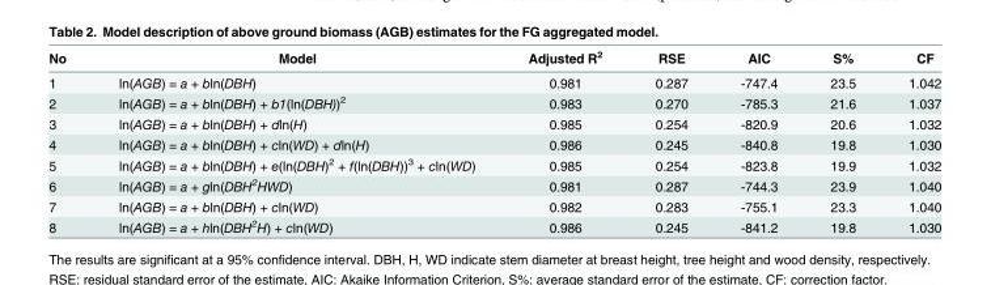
<table><thead><tr><td>No</td><td>Model</td><td>Adjusted R<sup>2</sup></td><td>RSE</td><td>AIC</td><td>S%</td><td>CF</td></tr></thead><tbody><tr><td>1</td><td>ln(AGB) = a + bln(DBH)</td><td>0.981</td><td>0.287</td><td>-747.4</td><td>23.5</td><td>1.042</td></tr><tr><td>2</td><td>ln(AGB) = a + bln(DBH) + b1(ln(DBH))<sup>2</sup></td><td>0.983</td><td>0.270</td><td>-785.3</td><td>21.6</td><td>1.037</td></tr><tr><td>3</td><td>ln(AGB) = a + bln(DBH) + dln(H)</td><td>0.985</td><td>0.254</td><td>-820.9</td><td>20.6</td><td>1.032</td></tr><tr><td>4</td><td>ln(AGB) = a + bln(DBH) + cln(WD) + dln(H)</td><td>0.986</td><td>0.245</td><td>-840.8</td><td>19.8</td><td>1.030</td></tr><tr><td>5</td><td>ln(AGB) = a + bln(DBH) + e(ln(DBH)<sup>2</sup> + f(ln(DBH))<sup>3</sup> + cln(WD)</td><td>0.985</td><td>0.254</td><td>-823.8</td><td>19.9</td><td>1.032</td></tr><tr><td>6</td><td>ln(AGB) = a + gln(DBH<sup>2</sup>HWD)</td><td>0.981</td><td>0.287</td><td>-744.3</td><td>23.9</td><td>1.040</td></tr><tr><td>7</td><td>ln(AGB) = a + bln(DBH) + cln(WD)</td><td>0.982</td><td>0.283</td><td>-755.1</td><td>23.3</td><td>1.040</td></tr><tr><td>8</td><td>ln(AGB) = a + hln(DBH<sup>2</sup>H) + cln(WD)</td><td>0.986</td><td>0.245</td><td>-841.2</td><td>19.8</td><td>1.030</td></tr></tbody></table>